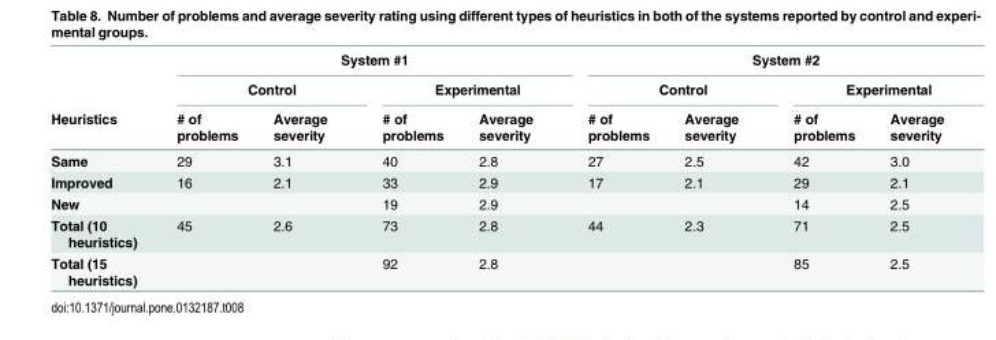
<table><thead><tr><td rowspan="3">Heuristics</td><td colspan="4">System #1</td><td colspan="4">System #2</td></tr><tr><td colspan="2">Control</td><td colspan="2">Experimental</td><td colspan="2">Control</td><td colspan="2">Experimental</td></tr><tr><td># of problems</td><td>Average severity</td><td># of problems</td><td>Average severity</td><td># of problems</td><td>Average severity</td><td># of problems</td><td>Average severity</td></tr></thead><tbody><tr><td>Same</td><td>29</td><td>3.1</td><td>40</td><td>2.8</td><td>27</td><td>2.5</td><td>42</td><td>3.0</td></tr><tr><td>Improved</td><td>16</td><td>2.1</td><td>33</td><td>2.9</td><td>17</td><td>2.1</td><td>29</td><td>2.1</td></tr><tr><td>New</td><td></td><td></td><td>19</td><td>2.9</td><td></td><td></td><td>14</td><td>2.5</td></tr><tr><td>Total (10 heuristics)</td><td>45</td><td>2.6</td><td>73</td><td>2.8</td><td>44</td><td>2.3</td><td>71</td><td>2.5</td></tr><tr><td>Total (15 heuristics)</td><td></td><td></td><td>92</td><td>2.8</td><td></td><td></td><td>85</td><td>2.5</td></tr></tbody></table>